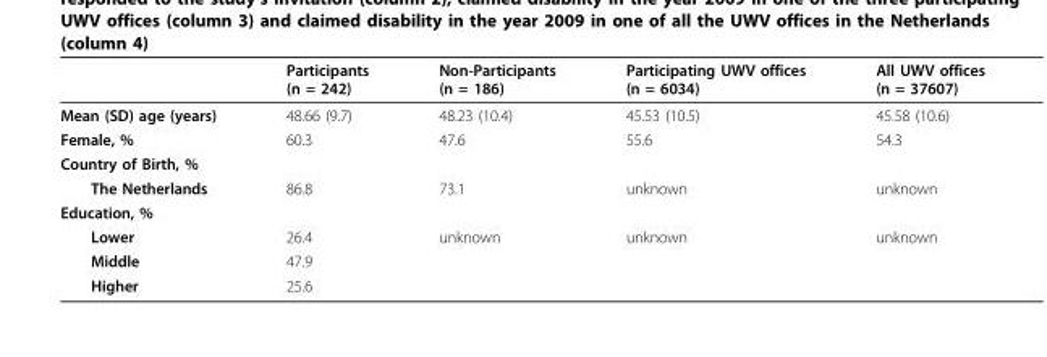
<table><thead><tr><td></td><td>Participants (n = 242)</td><td>Non-Participants (n = 186)</td><td>Participating UWV offices (n = 6034)</td><td>All UWV offices (n = 37607)</td></tr></thead><tbody><tr><td>Mean (SD) age (years)</td><td>48.66 (9.7)</td><td>48.23 (10.4)</td><td>45.53 (10.5)</td><td>45.58 (10.6)</td></tr><tr><td>Female, %</td><td>60.3</td><td>47.6</td><td>55.6</td><td>54.3</td></tr><tr><td colspan="5">Country of Birth, %</td></tr><tr><td>The Netherlands</td><td>86.8</td><td>73.1</td><td>unknown</td><td>unknown</td></tr><tr><td colspan="5">Education, %</td></tr><tr><td>Lower</td><td>26.4</td><td>unknown</td><td>unknown</td><td>unknown</td></tr><tr><td>Middle</td><td>47.9</td><td></td><td></td><td></td></tr><tr><td>Higher</td><td>25.6</td><td></td><td></td><td></td></tr></tbody></table>